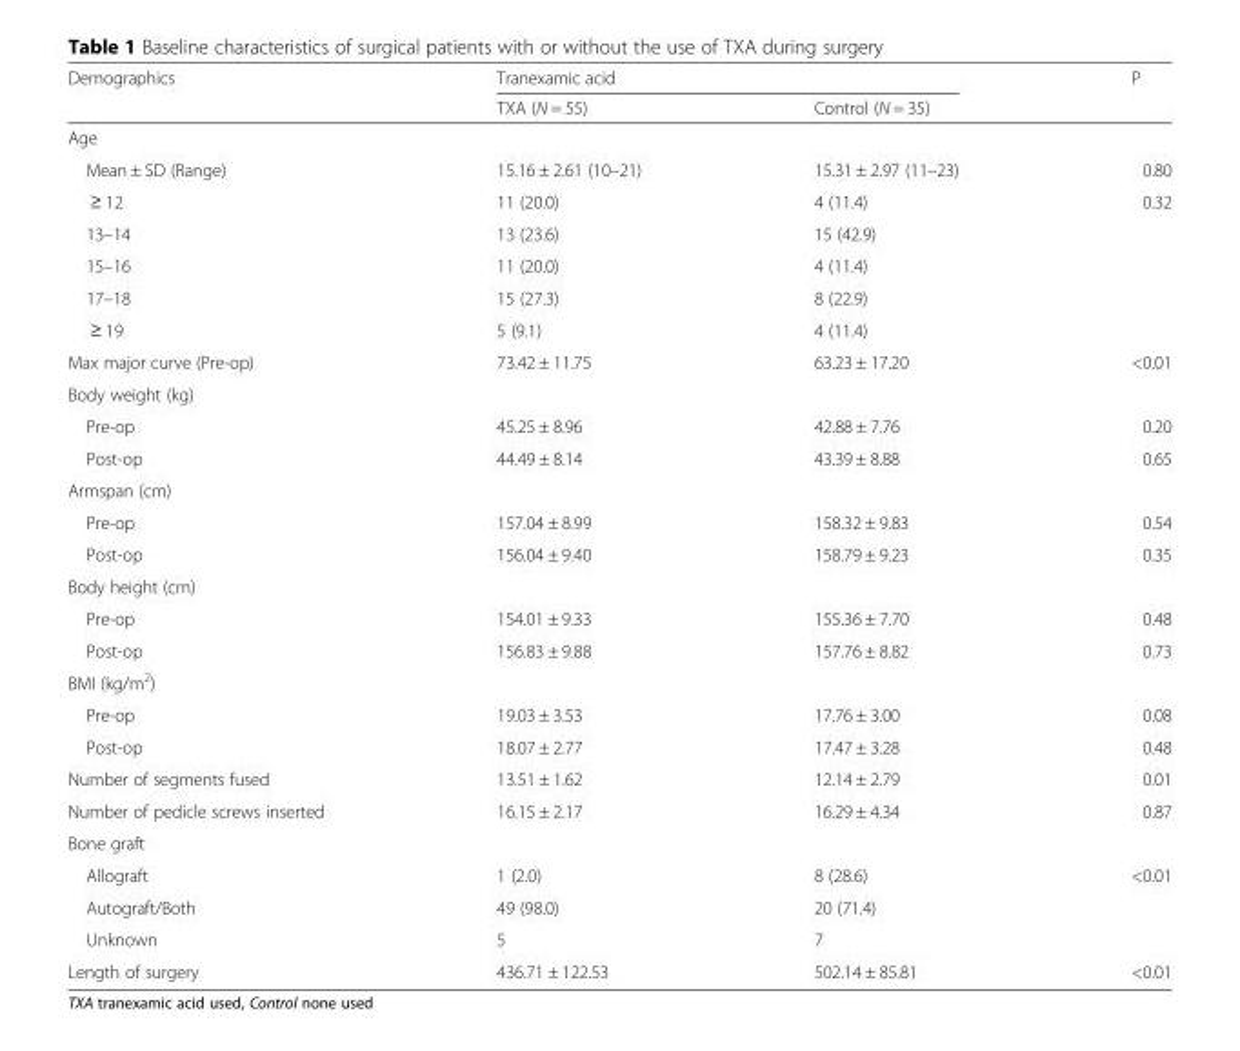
<table><thead><tr><td rowspan="2">Demographics</td><td colspan="2">Tranexamic acid</td><td rowspan="2">P</td></tr><tr><td>TXA (N = 55)</td><td>Control (N = 35)</td></tr></thead><tbody><tr><td colspan="4">Age</td></tr><tr><td>Mean ± SD (Range)</td><td>15.16 ± 2.61 (10–21)</td><td>15.31 ± 2.97 (11–23)</td><td>0.80</td></tr><tr><td>≥ 12</td><td>11 (20.0)</td><td>4 (11.4)</td><td>0.32</td></tr><tr><td>13–14</td><td>13 (23.6)</td><td>15 (42.9)</td><td></td></tr><tr><td>15–16</td><td>11 (20.0)</td><td>4 (11.4)</td><td></td></tr><tr><td>17–18</td><td>15 (27.3)</td><td>8 (22.9)</td><td></td></tr><tr><td>≥ 19</td><td>5 (9.1)</td><td>4 (11.4)</td><td></td></tr><tr><td>Max major curve (Pre-op)</td><td>73.42 ± 11.75</td><td>63.23 ± 17.20</td><td>&lt;0.01</td></tr><tr><td colspan="4">Body weight (kg)</td></tr><tr><td>Pre-op</td><td>45.25 ± 8.96</td><td>42.88 ± 7.76</td><td>0.20</td></tr><tr><td>Post-op</td><td>44.49 ± 8.14</td><td>43.39 ± 8.88</td><td>0.65</td></tr><tr><td colspan="4">Armspan (cm)</td></tr><tr><td>Pre-op</td><td>157.04 ± 8.99</td><td>158.32 ± 9.83</td><td>0.54</td></tr><tr><td>Post-op</td><td>156.04 ± 9.40</td><td>158.79 ± 9.23</td><td>0.35</td></tr><tr><td colspan="4">Body height (cm)</td></tr><tr><td>Pre-op</td><td>154.01 ± 9.33</td><td>155.36 ± 7.70</td><td>0.48</td></tr><tr><td>Post-op</td><td>156.83 ± 9.88</td><td>157.76 ± 8.82</td><td>0.73</td></tr><tr><td colspan="4">BMI (kg/m<sup>2</sup>)</td></tr><tr><td>Pre-op</td><td>19.03 ± 3.53</td><td>17.76 ± 3.00</td><td>0.08</td></tr><tr><td>Post-op</td><td>18.07 ± 2.77</td><td>17.47 ± 3.28</td><td>0.48</td></tr><tr><td>Number of segments fused</td><td>13.51 ± 1.62</td><td>12.14 ± 2.79</td><td>0.01</td></tr><tr><td>Number of pedicle screws inserted</td><td>16.15 ± 2.17</td><td>16.29 ± 4.34</td><td>0.87</td></tr><tr><td colspan="4">Bone graft</td></tr><tr><td>Allograft</td><td>1 (2.0)</td><td>8 (28.6)</td><td>&lt;0.01</td></tr><tr><td>Autograft/Both</td><td>49 (98.0)</td><td>20 (71.4)</td><td></td></tr><tr><td>Unknown</td><td>5</td><td>7</td><td></td></tr><tr><td>Length of surgery</td><td>436.71 ± 122.53</td><td>502.14 ± 85.81</td><td>&lt;0.01</td></tr></tbody></table>